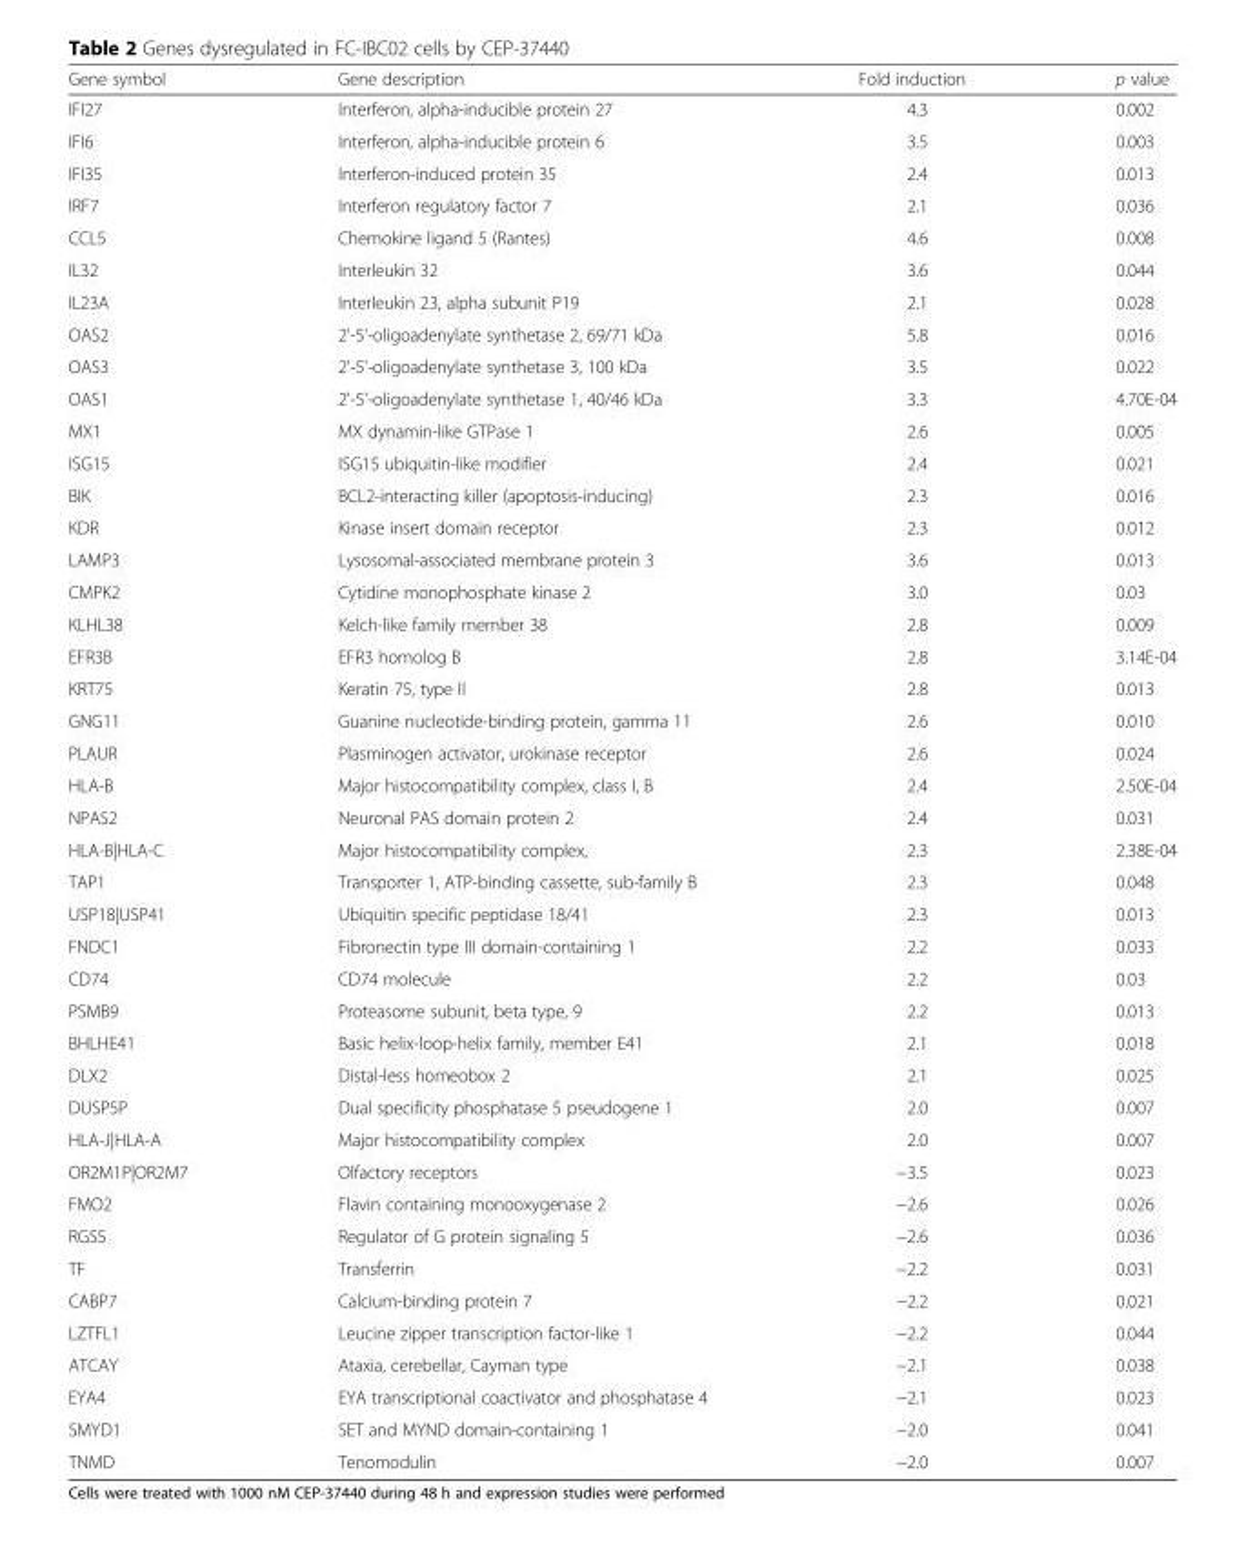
<table><thead><tr><td>Gene symbol</td><td>Gene description</td><td>Fold induction</td><td>p value</td></tr></thead><tbody><tr><td>IFI27</td><td>Interferon, alpha-inducible protein 27</td><td>4.3</td><td>0.002</td></tr><tr><td>IFI6</td><td>Interferon, alpha-inducible protein 6</td><td>3.5</td><td>0.003</td></tr><tr><td>IFI35</td><td>Interferon-induced protein 35</td><td>2.4</td><td>0.013</td></tr><tr><td>IRF7</td><td>Interferon regulatory factor 7</td><td>2.1</td><td>0.036</td></tr><tr><td>CCL5</td><td>Chemokine ligand 5 (Rantes)</td><td>4.6</td><td>0.008</td></tr><tr><td>IL32</td><td>Interleukin 32</td><td>3.6</td><td>0.044</td></tr><tr><td>IL23A</td><td>Interleukin 23, alpha subunit P19</td><td>2.1</td><td>0.028</td></tr><tr><td>OAS2</td><td>2&#x27;-5&#x27;-oligoadenylate synthetase 2, 69/71 kDa</td><td>5.8</td><td>0.016</td></tr><tr><td>OAS3</td><td>2&#x27;-5&#x27;-oligoadenylate synthetase 3, 100 kDa</td><td>3.5</td><td>0.022</td></tr><tr><td>OAS1</td><td>2&#x27;-5&#x27;-oligoadenylate synthetase 1, 40/46 kDa</td><td>3.3</td><td>4.70E-04</td></tr><tr><td>MX1</td><td>MX dynamin-like GTPase 1</td><td>2.6</td><td>0.005</td></tr><tr><td>ISG15</td><td>ISG15 ubiquitin-like modifier</td><td>2.4</td><td>0.021</td></tr><tr><td>BIK</td><td>BCL2-interacting killer (apoptosis-inducing)</td><td>2.3</td><td>0.016</td></tr><tr><td>KDR</td><td>Kinase insert domain receptor</td><td>2.3</td><td>0.012</td></tr><tr><td>LAMP3</td><td>Lysosomal-associated membrane protein 3</td><td>3.6</td><td>0.013</td></tr><tr><td>CMPK2</td><td>Cytidine monophosphate kinase 2</td><td>3.0</td><td>0.03</td></tr><tr><td>KLHL38</td><td>Kelch-like family member 38</td><td>2.8</td><td>0.009</td></tr><tr><td>EFR3B</td><td>EFR3 homolog B</td><td>2.8</td><td>3.14E-04</td></tr><tr><td>KRT75</td><td>Keratin 75, type II</td><td>2.8</td><td>0.013</td></tr><tr><td>GNG11</td><td>Guanine nucleotide-binding protein, gamma 11</td><td>2.6</td><td>0.010</td></tr><tr><td>PLAUR</td><td>Plasminogen activator, urokinase receptor</td><td>2.6</td><td>0.024</td></tr><tr><td>HLA-B</td><td>Major histocompatibility complex, class I, B</td><td>2.4</td><td>2.50E-04</td></tr><tr><td>NPAS2</td><td>Neuronal PAS domain protein 2</td><td>2.4</td><td>0.031</td></tr><tr><td>HLA-B|HLA-C</td><td>Major histocompatibility complex,</td><td>2.3</td><td>2.38E-04</td></tr><tr><td>TAP1</td><td>Transporter 1, ATP-binding cassette, sub-family B</td><td>2.3</td><td>0.048</td></tr><tr><td>USP18|USP41</td><td>Ubiquitin specific peptidase 18/41</td><td>2.3</td><td>0.013</td></tr><tr><td>FNDC1</td><td>Fibronectin type III domain-containing 1</td><td>2.2</td><td>0.033</td></tr><tr><td>CD74</td><td>CD74 molecule</td><td>2.2</td><td>0.03</td></tr><tr><td>PSMB9</td><td>Proteasome subunit, beta type, 9</td><td>2.2</td><td>0.013</td></tr><tr><td>BHLHE41</td><td>Basic helix-loop-helix family, member E41</td><td>2.1</td><td>0.018</td></tr><tr><td>DLX2</td><td>Distal-less homeobox 2</td><td>2.1</td><td>0.025</td></tr><tr><td>DUSP5P</td><td>Dual specificity phosphatase 5 pseudogene 1</td><td>2.0</td><td>0.007</td></tr><tr><td>HLA-J|HLA-A</td><td>Major histocompatibility complex</td><td>2.0</td><td>0.007</td></tr><tr><td>OR2M1P|OR2M7</td><td>Olfactory receptors</td><td>−3.5</td><td>0.023</td></tr><tr><td>FMO2</td><td>Flavin containing monooxygenase 2</td><td>−2.6</td><td>0.026</td></tr><tr><td>RGS5</td><td>Regulator of G protein signaling 5</td><td>−2.6</td><td>0.036</td></tr><tr><td>TF</td><td>Transferrin</td><td>−2.2</td><td>0.031</td></tr><tr><td>CABP7</td><td>Calcium-binding protein 7</td><td>−2.2</td><td>0.021</td></tr><tr><td>LZTFL1</td><td>Leucine zipper transcription factor-like 1</td><td>−2.2</td><td>0.044</td></tr><tr><td>ATCAY</td><td>Ataxia, cerebellar, Cayman type</td><td>−2.1</td><td>0.038</td></tr><tr><td>EYA4</td><td>EYA transcriptional coactivator and phosphatase 4</td><td>−2.1</td><td>0.023</td></tr><tr><td>SMYD1</td><td>SET and MYND domain-containing 1</td><td>−2.0</td><td>0.041</td></tr><tr><td>TNMD</td><td>Tenomodulin</td><td>−2.0</td><td>0.007</td></tr></tbody></table>